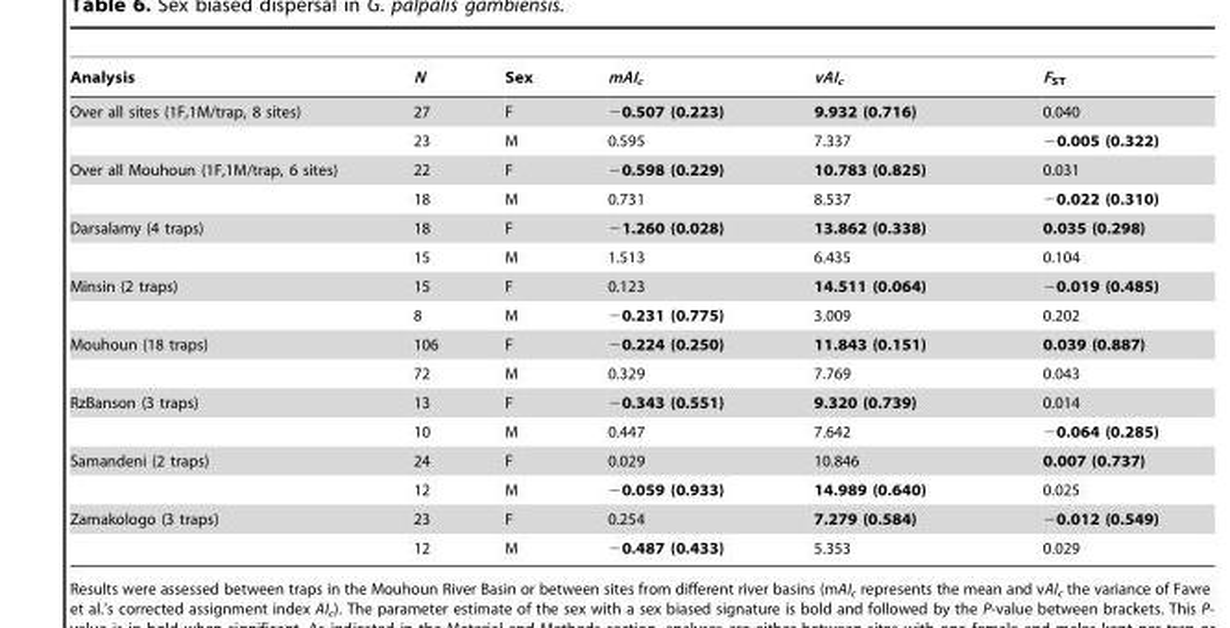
<table><thead><tr><td>Analysis</td><td>N</td><td>Sex</td><td>mAI<sub>c</sub></td><td>vAI<sub>c</sub></td><td>F<sub>ST</sub></td></tr></thead><tbody><tr><td rowspan="2">Over all sites (1F,1M/trap, 8 sites)</td><td>27</td><td>F</td><td>−0.507 (0.223)</td><td>9.932 (0.716)</td><td>0.040</td></tr><tr><td>23</td><td>M</td><td>0.595</td><td>7.337</td><td>−0.005 (0.322)</td></tr><tr><td rowspan="2">Over all Mouhoun (1F,1M/trap, 6 sites)</td><td>22</td><td>F</td><td>−0.598 (0.229)</td><td>10.783 (0.825)</td><td>0.031</td></tr><tr><td>18</td><td>M</td><td>0.731</td><td>8.537</td><td>−0.022 (0.310)</td></tr><tr><td rowspan="2">Darsalamy (4 traps)</td><td>18</td><td>F</td><td>−1.260 (0.028)</td><td>13.862 (0.338)</td><td>0.035 (0.298)</td></tr><tr><td>15</td><td>M</td><td>1.513</td><td>6.435</td><td>0.104</td></tr><tr><td rowspan="2">Minsin (2 traps)</td><td>15</td><td>F</td><td>0.123</td><td>14.511 (0.064)</td><td>−0.019 (0.485)</td></tr><tr><td>8</td><td>M</td><td>−0.231 (0.775)</td><td>3.009</td><td>0.202</td></tr><tr><td rowspan="2">Mouhoun (18 traps)</td><td>106</td><td>F</td><td>−0.224 (0.250)</td><td>11.843 (0.151)</td><td>0.039 (0.887)</td></tr><tr><td>72</td><td>M</td><td>0.329</td><td>7.769</td><td>0.043</td></tr><tr><td rowspan="2">RzBanson (3 traps)</td><td>13</td><td>F</td><td>−0.343 (0.551)</td><td>9.320 (0.739)</td><td>0.014</td></tr><tr><td>10</td><td>M</td><td>0.447</td><td>7.642</td><td>−0.064 (0.285)</td></tr><tr><td rowspan="2">Samandeni (2 traps)</td><td>24</td><td>F</td><td>0.029</td><td>10.846</td><td>0.007 (0.737)</td></tr><tr><td>12</td><td>M</td><td>−0.059 (0.933)</td><td>14.989 (0.640)</td><td>0.025</td></tr><tr><td rowspan="2">Zamakologo (3 traps)</td><td>23</td><td>F</td><td>0.254</td><td>7.279 (0.584)</td><td>−0.012 (0.549)</td></tr><tr><td>12</td><td>M</td><td>−0.487 (0.433)</td><td>5.353</td><td>0.029</td></tr></tbody></table>